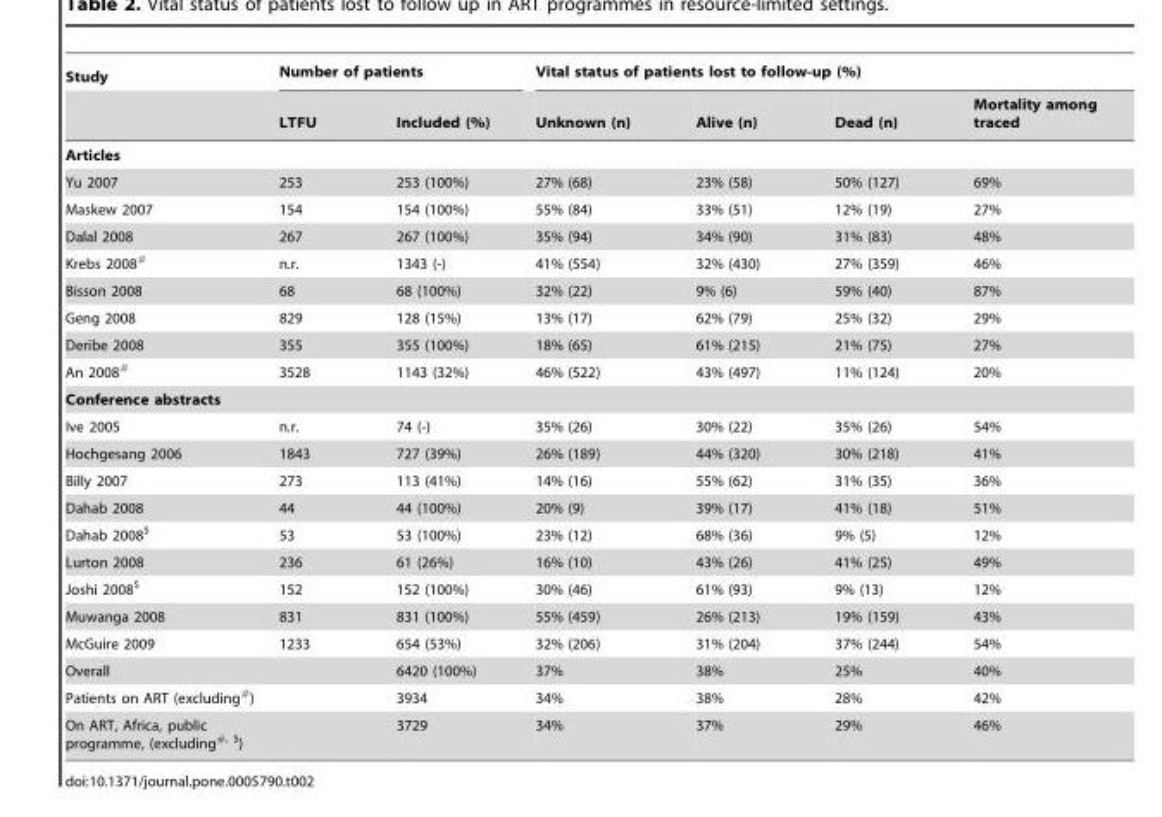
<table><thead><tr><td rowspan="2">Study</td><td colspan="2">Number of patients</td><td colspan="4">Vital status of patients lost to follow-up (%)</td></tr><tr><td>LTFU</td><td>Included (%)</td><td>Unknown (n)</td><td>Alive (n)</td><td>Dead (n)</td><td>Mortality among traced</td></tr></thead><tbody><tr><td colspan="7">Articles</td></tr><tr><td>Yu 2007</td><td>253</td><td>253 (100%)</td><td>27% (68)</td><td>23% (58)</td><td>50% (127)</td><td>69%</td></tr><tr><td>Maskew 2007</td><td>154</td><td>154 (100%)</td><td>55% (84)</td><td>33% (51)</td><td>12% (19)</td><td>27%</td></tr><tr><td>Dalal 2008</td><td>267</td><td>267 (100%)</td><td>35% (94)</td><td>34% (90)</td><td>31% (83)</td><td>48%</td></tr><tr><td>Krebs 2008<sup>#</sup></td><td>n.r.</td><td>1343 (-)</td><td>41% (554)</td><td>32% (430)</td><td>27% (359)</td><td>46%</td></tr><tr><td>Bisson 2008</td><td>68</td><td>68 (100%)</td><td>32% (22)</td><td>9% (6)</td><td>59% (40)</td><td>87%</td></tr><tr><td>Geng 2008</td><td>829</td><td>128 (15%)</td><td>13% (17)</td><td>62% (79)</td><td>25% (32)</td><td>29%</td></tr><tr><td>Deribe 2008</td><td>355</td><td>355 (100%)</td><td>18% (65)</td><td>61% (215)</td><td>21% (75)</td><td>27%</td></tr><tr><td>An 2008<sup>#</sup></td><td>3528</td><td>1143 (32%)</td><td>46% (522)</td><td>43% (497)</td><td>11% (124)</td><td>20%</td></tr><tr><td colspan="7">Conference abstracts</td></tr><tr><td>Ive 2005</td><td>n.r.</td><td>74 (-)</td><td>35% (26)</td><td>30% (22)</td><td>35% (26)</td><td>54%</td></tr><tr><td>Hochgesang 2006</td><td>1843</td><td>727 (39%)</td><td>26% (189)</td><td>44% (320)</td><td>30% (218)</td><td>41%</td></tr><tr><td>Billy 2007</td><td>273</td><td>113 (41%)</td><td>14% (16)</td><td>55% (62)</td><td>31% (35)</td><td>36%</td></tr><tr><td>Dahab 2008</td><td>44</td><td>44 (100%)</td><td>20% (9)</td><td>39% (17)</td><td>41% (18)</td><td>51%</td></tr><tr><td>Dahab 2008<sup>$</sup></td><td>53</td><td>53 (100%)</td><td>23% (12)</td><td>68% (36)</td><td>9% (5)</td><td>12%</td></tr><tr><td>Lurton 2008</td><td>236</td><td>61 (26%)</td><td>16% (10)</td><td>43% (26)</td><td>41% (25)</td><td>49%</td></tr><tr><td>Joshi 2008<sup>$</sup></td><td>152</td><td>152 (100%)</td><td>30% (46)</td><td>61% (93)</td><td>9% (13)</td><td>12%</td></tr><tr><td>Muwanga 2008</td><td>831</td><td>831 (100%)</td><td>55% (459)</td><td>26% (213)</td><td>19% (159)</td><td>43%</td></tr><tr><td>McGuire 2009</td><td>1233</td><td>654 (53%)</td><td>32% (206)</td><td>31% (204)</td><td>37% (244)</td><td>54%</td></tr><tr><td>Overall</td><td></td><td>6420 (100%)</td><td>37%</td><td>38%</td><td>25%</td><td>40%</td></tr><tr><td>Patients on ART (excluding<sup>#</sup>)</td><td></td><td>3934</td><td>34%</td><td>38%</td><td>28%</td><td>42%</td></tr><tr><td>On ART, Africa, public programme, (excluding<sup>#, $</sup>)</td><td></td><td>3729</td><td>34%</td><td>37%</td><td>29%</td><td>46%</td></tr></tbody></table>